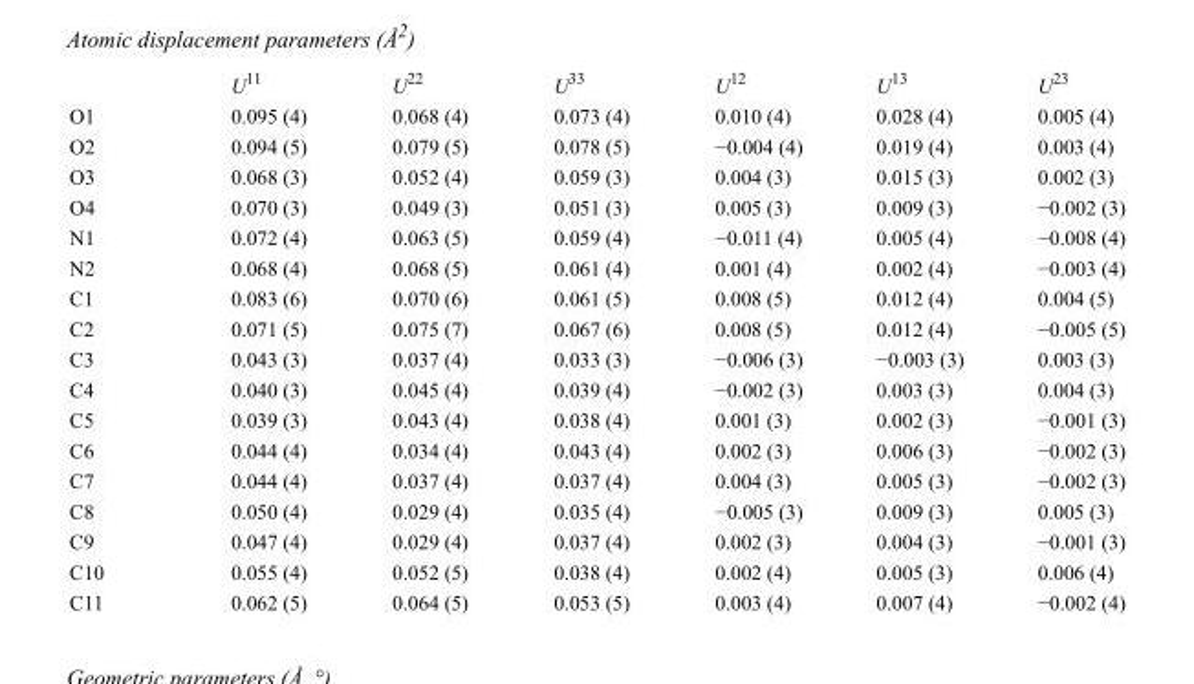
<table><thead><tr><td></td><td>U<sup>11</sup></td><td>U<sup>22</sup></td><td>U<sup>33</sup></td><td>U<sup>12</sup></td><td>U<sup>13</sup></td><td>U<sup>23</sup></td></tr></thead><tbody><tr><td>O1</td><td>0.095 (4)</td><td>0.068 (4)</td><td>0.073 (4)</td><td>0.010 (4)</td><td>0.028 (4)</td><td>0.005 (4)</td></tr><tr><td>O2</td><td>0.094 (5)</td><td>0.079 (5)</td><td>0.078 (5)</td><td>−0.004 (4)</td><td>0.019 (4)</td><td>0.003 (4)</td></tr><tr><td>O3</td><td>0.068 (3)</td><td>0.052 (4)</td><td>0.059 (3)</td><td>0.004 (3)</td><td>0.015 (3)</td><td>0.002 (3)</td></tr><tr><td>O4</td><td>0.070 (3)</td><td>0.049 (3)</td><td>0.051 (3)</td><td>0.005 (3)</td><td>0.009 (3)</td><td>−0.002 (3)</td></tr><tr><td>N1</td><td>0.072 (4)</td><td>0.063 (5)</td><td>0.059 (4)</td><td>−0.011 (4)</td><td>0.005 (4)</td><td>−0.008 (4)</td></tr><tr><td>N2</td><td>0.068 (4)</td><td>0.068 (5)</td><td>0.061 (4)</td><td>0.001 (4)</td><td>0.002 (4)</td><td>−0.003 (4)</td></tr><tr><td>C1</td><td>0.083 (6)</td><td>0.070 (6)</td><td>0.061 (5)</td><td>0.008 (5)</td><td>0.012 (4)</td><td>0.004 (5)</td></tr><tr><td>C2</td><td>0.071 (5)</td><td>0.075 (7)</td><td>0.067 (6)</td><td>0.008 (5)</td><td>0.012 (4)</td><td>−0.005 (5)</td></tr><tr><td>C3</td><td>0.043 (3)</td><td>0.037 (4)</td><td>0.033 (3)</td><td>−0.006 (3)</td><td>−0.003 (3)</td><td>0.003 (3)</td></tr><tr><td>C4</td><td>0.040 (3)</td><td>0.045 (4)</td><td>0.039 (4)</td><td>−0.002 (3)</td><td>0.003 (3)</td><td>0.004 (3)</td></tr><tr><td>C5</td><td>0.039 (3)</td><td>0.043 (4)</td><td>0.038 (4)</td><td>0.001 (3)</td><td>0.002 (3)</td><td>−0.001 (3)</td></tr><tr><td>C6</td><td>0.044 (4)</td><td>0.034 (4)</td><td>0.043 (4)</td><td>0.002 (3)</td><td>0.006 (3)</td><td>−0.002 (3)</td></tr><tr><td>C7</td><td>0.044 (4)</td><td>0.037 (4)</td><td>0.037 (4)</td><td>0.004 (3)</td><td>0.005 (3)</td><td>−0.002 (3)</td></tr><tr><td>C8</td><td>0.050 (4)</td><td>0.029 (4)</td><td>0.035 (4)</td><td>−0.005 (3)</td><td>0.009 (3)</td><td>0.005 (3)</td></tr><tr><td>C9</td><td>0.047 (4)</td><td>0.029 (4)</td><td>0.037 (4)</td><td>0.002 (3)</td><td>0.004 (3)</td><td>−0.001 (3)</td></tr><tr><td>C10</td><td>0.055 (4)</td><td>0.052 (5)</td><td>0.038 (4)</td><td>0.002 (4)</td><td>0.005 (3)</td><td>0.006 (4)</td></tr><tr><td>C11</td><td>0.062 (5)</td><td>0.064 (5)</td><td>0.053 (5)</td><td>0.003 (4)</td><td>0.007 (4)</td><td>−0.002 (4)</td></tr></tbody></table>